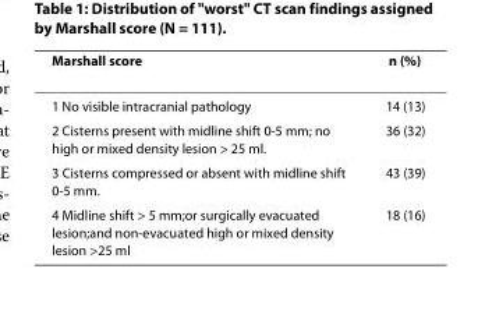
<table><thead><tr><td>Marshall score</td><td>n (%)</td></tr></thead><tbody><tr><td>1 No visible intracranial pathology</td><td>14 (13)</td></tr><tr><td>2 Cisterns present with midline shift 0-5 mm; no high or mixed density lesion &gt; 25 ml.</td><td>36 (32)</td></tr><tr><td>3 Cisterns compressed or absent with midline shift 0-5 mm.</td><td>43 (39)</td></tr><tr><td>4 Midline shift &gt; 5 mm;or surgically evacuated lesion;and non-evacuated high or mixed density lesion &gt;25 ml</td><td>18 (16)</td></tr></tbody></table>